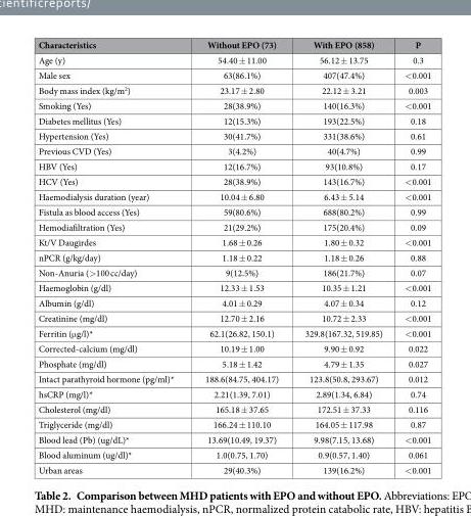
<table><thead><tr><td>Characteristics</td><td>Without EPO (73)</td><td>With EPO (858)</td><td>P</td></tr></thead><tbody><tr><td>Age (y)</td><td>54.40 ± 11.00</td><td>56.12 ± 13.75</td><td>0.3</td></tr><tr><td>Male sex</td><td>63(86.1%)</td><td>407(47.4%)</td><td>&lt;0.001</td></tr><tr><td>Body mass index (kg/m<sup>2</sup>)</td><td>23.17 ± 2.80</td><td>22.12 ± 3.21</td><td>0.003</td></tr><tr><td>Smoking (Yes)</td><td>28(38.9%)</td><td>140(16.3%)</td><td>&lt;0.001</td></tr><tr><td>Diabetes mellitus (Yes)</td><td>12(15.3%)</td><td>193(22.5%)</td><td>0.18</td></tr><tr><td>Hypertension (Yes)</td><td>30(41.7%)</td><td>331(38.6%)</td><td>0.61</td></tr><tr><td>Previous CVD (Yes)</td><td>3(4.2%)</td><td>40(4.7%)</td><td>0.99</td></tr><tr><td>HBV (Yes)</td><td>12(16.7%)</td><td>93(10.8%)</td><td>0.17</td></tr><tr><td>HCV (Yes)</td><td>28(38.9%)</td><td>143(16.7%)</td><td>&lt;0.001</td></tr><tr><td>Haemodialysis duration (year)</td><td>10.04 ± 6.80</td><td>6.43 ± 5.14</td><td>&lt;0.001</td></tr><tr><td>Fistula as blood access (Yes)</td><td>59(80.6%)</td><td>688(80.2%)</td><td>0.99</td></tr><tr><td>Hemodiafiltration (Yes)</td><td>21(29.2%)</td><td>175(20.4%)</td><td>0.09</td></tr><tr><td>Kt/V Daugirdes</td><td>1.68 ± 0.26</td><td>1.80 ± 0.32</td><td>&lt;0.001</td></tr><tr><td>nPCR (g/kg/day)</td><td>1.18 ± 0.22</td><td>1.18 ± 0.26</td><td>0.88</td></tr><tr><td>Non-Anuria (&gt;100 cc/day)</td><td>9(12.5%)</td><td>186(21.7%)</td><td>0.07</td></tr><tr><td>Haemoglobin (g/dl)</td><td>12.33 ± 1.53</td><td>10.35 ± 1.21</td><td>&lt;0.001</td></tr><tr><td>Albumin (g/dl)</td><td>4.01 ± 0.29</td><td>4.07 ± 0.34</td><td>0.12</td></tr><tr><td>Creatinine (mg/dl)</td><td>12.70 ± 2.16</td><td>10.72 ± 2.33</td><td>&lt;0.001</td></tr><tr><td>Ferritin (μg/l)*</td><td>62.1(26.82, 150.1)</td><td>329.8(167.32, 519.85)</td><td>&lt;0.001</td></tr><tr><td>Corrected-calcium (mg/dl)</td><td>10.19 ± 1.00</td><td>9.90 ± 0.92</td><td>0.022</td></tr><tr><td>Phosphate (mg/dl)</td><td>5.18 ± 1.42</td><td>4.79 ± 1.35</td><td>0.027</td></tr><tr><td>Intact parathyroid hormone (pg/ml)*</td><td>188.6(84.75, 404.17)</td><td>123.8(50.8, 293.67)</td><td>0.012</td></tr><tr><td>hsCRP (mg/l)*</td><td>2.21(1.39, 7.01)</td><td>2.89(1.34, 6.84)</td><td>0.74</td></tr><tr><td>Cholesterol (mg/dl)</td><td>165.18 ± 37.65</td><td>172.51 ± 37.33</td><td>0.116</td></tr><tr><td>Triglyceride (mg/dl)</td><td>166.24 ± 110.10</td><td>164.05 ± 117.98</td><td>0.87</td></tr><tr><td>Blood lead (Pb) (ug/dL)*</td><td>13.69(10.49, 19.37)</td><td>9.98(7.15, 13.68)</td><td>&lt;0.001</td></tr><tr><td>Blood aluminum (ug/dl)*</td><td>1.0(0.75, 1.70)</td><td>0.9(0.57, 1.40)</td><td>0.061</td></tr><tr><td>Urban areas</td><td>29(40.3%)</td><td>139(16.2%)</td><td>&lt;0.001</td></tr></tbody></table>